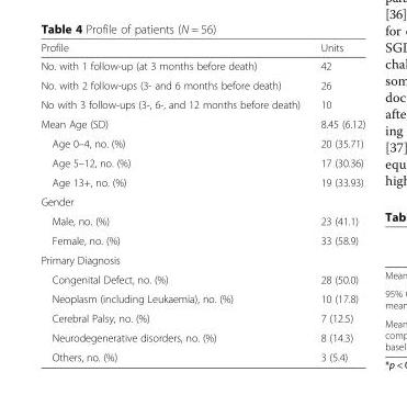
<table><thead><tr><td>Profile</td><td>Units</td></tr></thead><tbody><tr><td>No. with 1 follow-up (at 3 months before death)</td><td>42</td></tr><tr><td>No. with 2 follow-ups (3- and 6 months before death)</td><td>26</td></tr><tr><td>No with 3 follow-ups (3-, 6-, and 12 months before death)</td><td>10</td></tr><tr><td>Mean Age (SD)</td><td>8.45 (6.12)</td></tr><tr><td>Age 0–4, no. (%)</td><td>20 (35.71)</td></tr><tr><td>Age 5–12, no. (%)</td><td>17 (30.36)</td></tr><tr><td>Age 13+, no. (%)</td><td>19 (33.93)</td></tr><tr><td colspan="2">Gender</td></tr><tr><td>Male, no. (%)</td><td>23 (41.1)</td></tr><tr><td>Female, no. (%)</td><td>33 (58.9)</td></tr><tr><td colspan="2">Primary Diagnosis</td></tr><tr><td>Congenital Defect, no. (%)</td><td>28 (50.0)</td></tr><tr><td>Neoplasm (including Leukaemia), no. (%)</td><td>10 (17.8)</td></tr><tr><td>Cerebral Palsy, no. (%)</td><td>7 (12.5)</td></tr><tr><td>Neurodegenerative disorders, no. (%)</td><td>8 (14.3)</td></tr><tr><td>Others, no. (%)</td><td>3 (5.4)</td></tr></tbody></table>